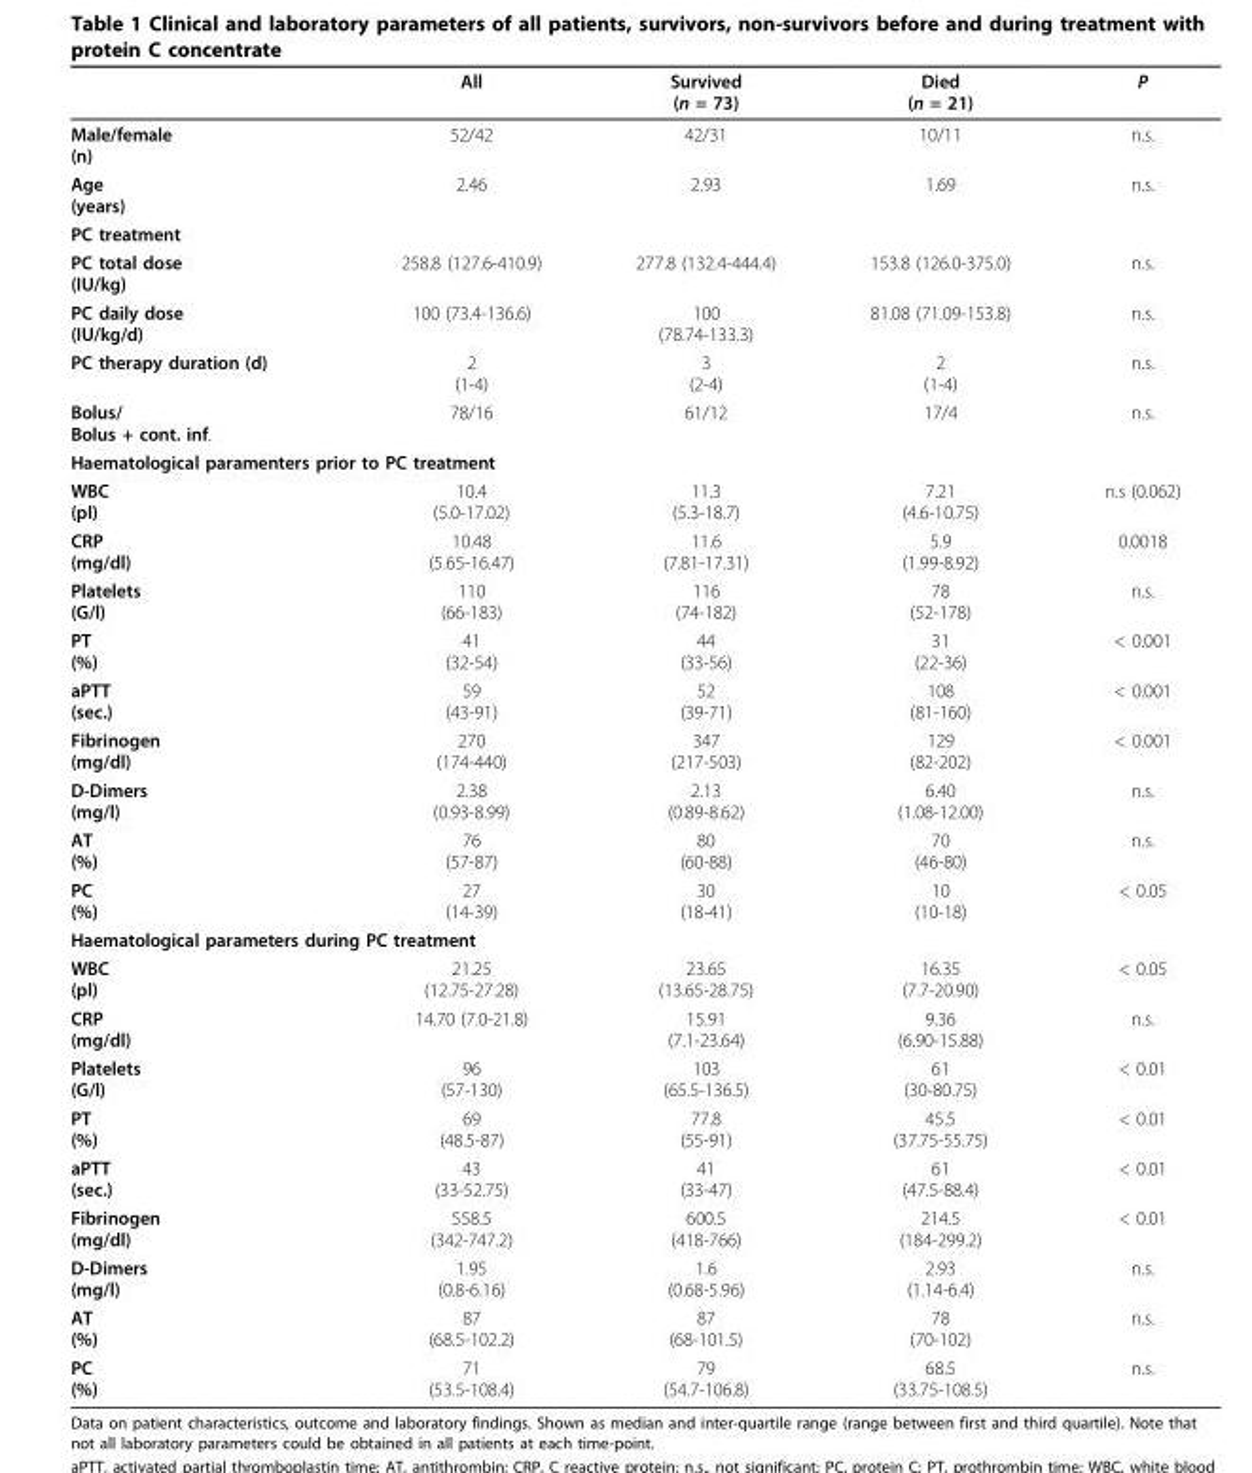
<table><thead><tr><td></td><td>All</td><td>Survived (n = 73)</td><td>Died (n = 21)</td><td>P</td></tr></thead><tbody><tr><td>Male/female (n)</td><td>52/42</td><td>42/31</td><td>10/11</td><td>n.s.</td></tr><tr><td>Age (years)</td><td>2.46</td><td>2.93</td><td>1.69</td><td>n.s.</td></tr><tr><td colspan="5">PC treatment</td></tr><tr><td>PC total dose (IU/kg)</td><td>258.8 (127.6-410.9)</td><td>277.8 (132.4-444.4)</td><td>153.8 (126.0-375.0)</td><td>n.s.</td></tr><tr><td>PC daily dose (IU/kg/d)</td><td>100 (73.4-136.6)</td><td>100 (78.74-133.3)</td><td>81.08 (71.09-153.8)</td><td>n.s.</td></tr><tr><td>PC therapy duration (d)</td><td>2 (1-4)</td><td>3 (2-4)</td><td>2 (1-4)</td><td>n.s.</td></tr><tr><td>Bolus/ Bolus + cont. inf.</td><td>78/16</td><td>61/12</td><td>17/4</td><td>n.s.</td></tr><tr><td colspan="5">Haematological paramenters prior to PC treatment</td></tr><tr><td>WBC (pl)</td><td>10.4 (5.0-17.02)</td><td>11.3 (5.3-18.7)</td><td>7.21 (4.6-10.75)</td><td>n.s (0.062)</td></tr><tr><td>CRP (mg/dl)</td><td>10.48 (5.65-16.47)</td><td>11.6 (7.81-17.31)</td><td>5.9 (1.99-8.92)</td><td>0.0018</td></tr><tr><td>Platelets (G/l)</td><td>110 (66-183)</td><td>116 (74-182)</td><td>78 (52-178)</td><td>n.s.</td></tr><tr><td>PT (%)</td><td>41 (32-54)</td><td>44 (33-56)</td><td>31 (22-36)</td><td>&lt; 0.001</td></tr><tr><td>aPTT (sec.)</td><td>59 (43-91)</td><td>52 (39-71)</td><td>108 (81-160)</td><td>&lt; 0.001</td></tr><tr><td>Fibrinogen (mg/dl)</td><td>270 (174-440)</td><td>347 (217-503)</td><td>129 (82-202)</td><td>&lt; 0.001</td></tr><tr><td>D-Dimers (mg/l)</td><td>2.38 (0.93-8.99)</td><td>2.13 (0.89-8.62)</td><td>6.40 (1.08-12.00)</td><td>n.s.</td></tr><tr><td>AT (%)</td><td>76 (57-87)</td><td>80 (60-88)</td><td>70 (46-80)</td><td>n.s.</td></tr><tr><td>PC (%)</td><td>27 (14-39)</td><td>30 (18-41)</td><td>10 (10-18)</td><td>&lt; 0.05</td></tr><tr><td colspan="5">Haematological parameters during PC treatment</td></tr><tr><td>WBC (pl)</td><td>21.25 (12.75-27.28)</td><td>23.65 (13.65-28.75)</td><td>16.35 (7.7-20.90)</td><td>&lt; 0.05</td></tr><tr><td>CRP (mg/dl)</td><td>14.70 (7.0-21.8)</td><td>15.91 (7.1-23.64)</td><td>9.36 (6.90-15.88)</td><td>n.s.</td></tr><tr><td>Platelets (G/l)</td><td>96 (57-130)</td><td>103 (65.5-136.5)</td><td>61 (30-80.75)</td><td>&lt; 0.01</td></tr><tr><td>PT (%)</td><td>69 (48.5-87)</td><td>77.8 (55-91)</td><td>45.5 (37.75-55.75)</td><td>&lt; 0.01</td></tr><tr><td>aPTT (sec.)</td><td>43 (33-52.75)</td><td>41 (33-47)</td><td>61 (47.5-88.4)</td><td>&lt; 0.01</td></tr><tr><td>Fibrinogen (mg/dl)</td><td>558.5 (342-747.2)</td><td>600.5 (418-766)</td><td>214.5 (184-299.2)</td><td>&lt; 0.01</td></tr><tr><td>D-Dimers (mg/l)</td><td>1.95 (0.8-6.16)</td><td>1.6 (0.68-5.96)</td><td>2.93 (1.14-6.4)</td><td>n.s.</td></tr><tr><td>AT (%)</td><td>87 (68.5-102.2)</td><td>87 (68-101.5)</td><td>78 (70-102)</td><td>n.s.</td></tr><tr><td>PC (%)</td><td>71 (53.5-108.4)</td><td>79 (54.7-106.8)</td><td>68.5 (33.75-108.5)</td><td>n.s.</td></tr></tbody></table>